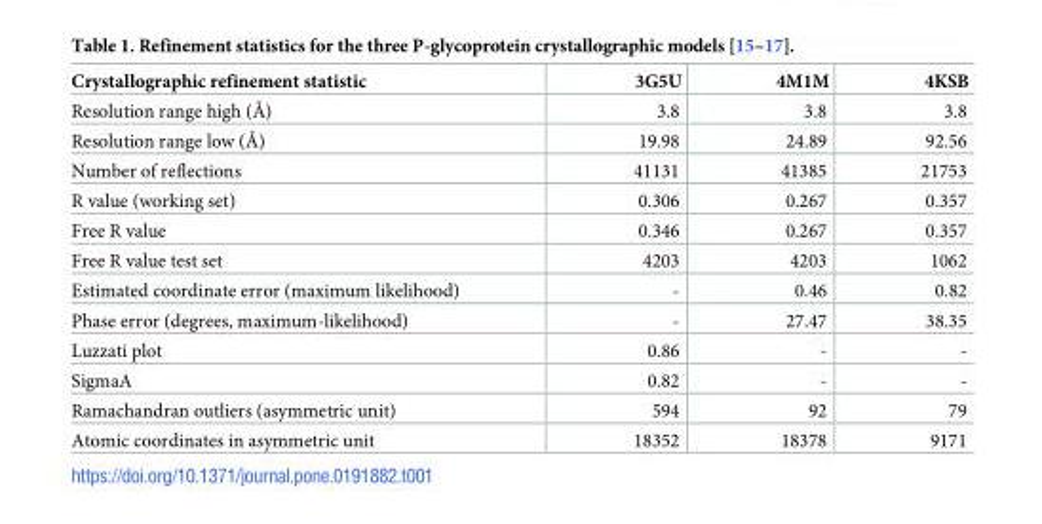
<table><thead><tr><td>Crystallographic refinement statistic</td><td>3G5U</td><td>4M1M</td><td>4KSB</td></tr></thead><tbody><tr><td>Resolution range high (Å)</td><td>3.8</td><td>3.8</td><td>3.8</td></tr><tr><td>Resolution range low (Å)</td><td>19.98</td><td>24.89</td><td>92.56</td></tr><tr><td>Number of reflections</td><td>41131</td><td>41385</td><td>21753</td></tr><tr><td>R value (working set)</td><td>0.306</td><td>0.267</td><td>0.357</td></tr><tr><td>Free R value</td><td>0.346</td><td>0.267</td><td>0.357</td></tr><tr><td>Free R value test set</td><td>4203</td><td>4203</td><td>1062</td></tr><tr><td>Estimated coordinate error (maximum likelihood)</td><td>-</td><td>0.46</td><td>0.82</td></tr><tr><td>Phase error (degrees, maximum-likelihood)</td><td>-</td><td>27.47</td><td>38.35</td></tr><tr><td>Luzzati plot</td><td>0.86</td><td>-</td><td>-</td></tr><tr><td>SigmaA</td><td>0.82</td><td>-</td><td>-</td></tr><tr><td>Ramachandran outliers (asymmetric unit)</td><td>594</td><td>92</td><td>79</td></tr><tr><td>Atomic coordinates in asymmetric unit</td><td>18352</td><td>18378</td><td>9171</td></tr></tbody></table>